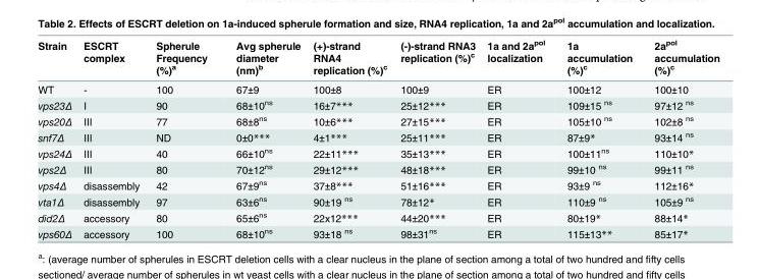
<table><thead><tr><td>Strain</td><td>ESCRT complex</td><td>Spherule Frequency (%)<sup>a</sup></td><td>Avg spherule diameter (nm)<sup>b</sup></td><td>(+)-strand RNA4 replication (%)<sup>c</sup></td><td>(-)-strand RNA3 replication (%)<sup>c</sup></td><td>1a and 2a<sup>pol</sup> localization</td><td>1a accumulation (%)<sup>c</sup></td><td>2a<sup>pol</sup> accumulation (%)<sup>c</sup></td></tr></thead><tbody><tr><td>WT</td><td>-</td><td>100</td><td>67±9</td><td>100±8</td><td>100±9</td><td>ER</td><td>100±12</td><td>100±10</td></tr><tr><td>vps23Δ</td><td>I</td><td>90</td><td>68±10<sup>ns</sup></td><td>16±7***</td><td>25±12***</td><td>ER</td><td>109±15 <sup>ns</sup></td><td>97±12 <sup>ns</sup></td></tr><tr><td>vps20Δ</td><td>III</td><td>77</td><td>68±8<sup>ns</sup></td><td>10±6***</td><td>27±15***</td><td>ER</td><td>105±10 <sup>ns</sup></td><td>102±8 <sup>ns</sup></td></tr><tr><td>snf7Δ</td><td>III</td><td>ND</td><td>0±0***</td><td>4±1***</td><td>25±11***</td><td>ER</td><td>87±9*</td><td>93±14 <sup>ns</sup></td></tr><tr><td>vps24Δ</td><td>III</td><td>40</td><td>66±10<sup>ns</sup></td><td>22±11***</td><td>35±13***</td><td>ER</td><td>100±11<sup>ns</sup></td><td>110±10*</td></tr><tr><td>vps2Δ</td><td>III</td><td>80</td><td>70±12<sup>ns</sup></td><td>29±12***</td><td>48±18***</td><td>ER</td><td>99±10 <sup>ns</sup></td><td>99±11 <sup>ns</sup></td></tr><tr><td>vps4Δ</td><td>disassembly</td><td>42</td><td>67±9<sup>ns</sup></td><td>37±8***</td><td>51±16***</td><td>ER</td><td>93±9 <sup>ns</sup></td><td>112±16*</td></tr><tr><td>vta1Δ</td><td>disassembly</td><td>97</td><td>63±6<sup>ns</sup></td><td>90±19 <sup>ns</sup></td><td>78±12*</td><td>ER</td><td>110±9 <sup>ns</sup></td><td>105±9 <sup>ns</sup></td></tr><tr><td>did2Δ</td><td>accessory</td><td>80</td><td>65±6<sup>ns</sup></td><td>22x12***</td><td>44±20***</td><td>ER</td><td>80±19*</td><td>88±14*</td></tr><tr><td>vps60Δ</td><td>accessory</td><td>100</td><td>68±10<sup>ns</sup></td><td>93±18 <sup>ns</sup></td><td>98±31<sup>ns</sup></td><td>ER</td><td>115±13**</td><td>85±17*</td></tr></tbody></table>